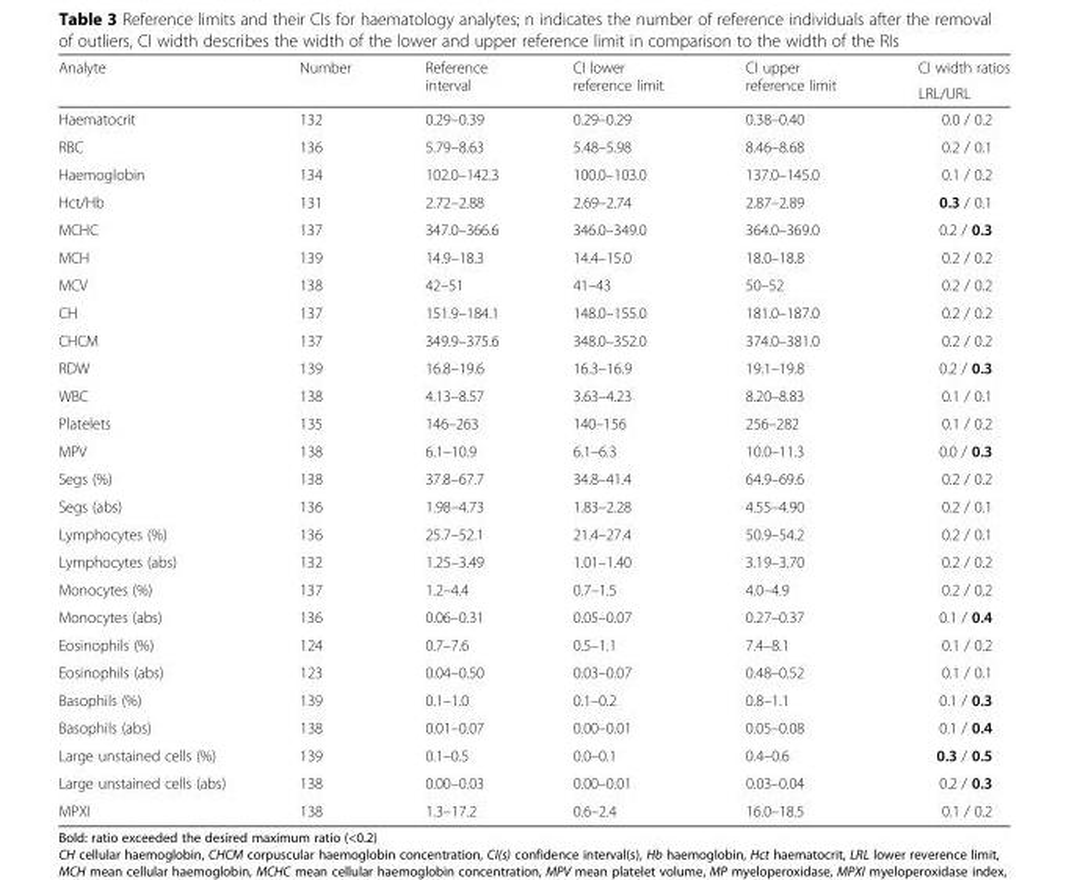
<table><thead><tr><td rowspan="2">Analyte</td><td rowspan="2">Number</td><td rowspan="2">Reference interval</td><td rowspan="2">CI lower reference limit</td><td rowspan="2">CI upper reference limit</td><td rowspan="2">CI width ratios LRL/URL</td></tr><tr></tr></thead><tbody><tr><td>Haematocrit</td><td>132</td><td>0.29–0.39</td><td>0.29–0.29</td><td>0.38–0.40</td><td>0.0 / 0.2</td></tr><tr><td>RBC</td><td>136</td><td>5.79–8.63</td><td>5.48–5.98</td><td>8.46–8.68</td><td>0.2 / 0.1</td></tr><tr><td>Haemoglobin</td><td>134</td><td>102.0–142.3</td><td>100.0–103.0</td><td>137.0–145.0</td><td>0.1 / 0.2</td></tr><tr><td>Hct/Hb</td><td>131</td><td>2.72–2.88</td><td>2.69–2.74</td><td>2.87–2.89</td><td>0.3 / 0.1</td></tr><tr><td>MCHC</td><td>137</td><td>347.0–366.6</td><td>346.0–349.0</td><td>364.0–369.0</td><td>0.2 / 0.3</td></tr><tr><td>MCH</td><td>139</td><td>14.9–18.3</td><td>14.4–15.0</td><td>18.0–18.8</td><td>0.2 / 0.2</td></tr><tr><td>MCV</td><td>138</td><td>42–51</td><td>41–43</td><td>50–52</td><td>0.2 / 0.2</td></tr><tr><td>CH</td><td>137</td><td>151.9–184.1</td><td>148.0–155.0</td><td>181.0–187.0</td><td>0.2 / 0.2</td></tr><tr><td>CHCM</td><td>137</td><td>349.9–375.6</td><td>348.0–352.0</td><td>374.0–381.0</td><td>0.2 / 0.2</td></tr><tr><td>RDW</td><td>139</td><td>16.8–19.6</td><td>16.3–16.9</td><td>19.1–19.8</td><td>0.2 / 0.3</td></tr><tr><td>WBC</td><td>138</td><td>4.13–8.57</td><td>3.63–4.23</td><td>8.20–8.83</td><td>0.1 / 0.1</td></tr><tr><td>Platelets</td><td>135</td><td>146–263</td><td>140–156</td><td>256–282</td><td>0.1 / 0.2</td></tr><tr><td>MPV</td><td>138</td><td>6.1–10.9</td><td>6.1–6.3</td><td>10.0–11.3</td><td>0.0 / 0.3</td></tr><tr><td>Segs (%)</td><td>138</td><td>37.8–67.7</td><td>34.8–41.4</td><td>64.9–69.6</td><td>0.2 / 0.2</td></tr><tr><td>Segs (abs)</td><td>136</td><td>1.98–4.73</td><td>1.83–2.28</td><td>4.55–4.90</td><td>0.2 / 0.1</td></tr><tr><td>Lymphocytes (%)</td><td>136</td><td>25.7–52.1</td><td>21.4–27.4</td><td>50.9–54.2</td><td>0.2 / 0.1</td></tr><tr><td>Lymphocytes (abs)</td><td>132</td><td>1.25–3.49</td><td>1.01–1.40</td><td>3.19–3.70</td><td>0.2 / 0.2</td></tr><tr><td>Monocytes (%)</td><td>137</td><td>1.2–4.4</td><td>0.7–1.5</td><td>4.0–4.9</td><td>0.2 / 0.2</td></tr><tr><td>Monocytes (abs)</td><td>136</td><td>0.06–0.31</td><td>0.05–0.07</td><td>0.27–0.37</td><td>0.1 / 0.4</td></tr><tr><td>Eosinophils (%)</td><td>124</td><td>0.7–7.6</td><td>0.5–1.1</td><td>7.4–8.1</td><td>0.1 / 0.2</td></tr><tr><td>Eosinophils (abs)</td><td>123</td><td>0.04–0.50</td><td>0.03–0.07</td><td>0.48–0.52</td><td>0.1 / 0.1</td></tr><tr><td>Basophils (%)</td><td>139</td><td>0.1–1.0</td><td>0.1–0.2</td><td>0.8–1.1</td><td>0.1 / 0.3</td></tr><tr><td>Basophils (abs)</td><td>138</td><td>0.01–0.07</td><td>0.00–0.01</td><td>0.05–0.08</td><td>0.1 / 0.4</td></tr><tr><td>Large unstained cells (%)</td><td>139</td><td>0.1–0.5</td><td>0.0–0.1</td><td>0.4–0.6</td><td>0.3 / 0.5</td></tr><tr><td>Large unstained cells (abs)</td><td>138</td><td>0.00–0.03</td><td>0.00–0.01</td><td>0.03–0.04</td><td>0.2 / 0.3</td></tr><tr><td>MPXI</td><td>138</td><td>1.3–17.2</td><td>0.6–2.4</td><td>16.0–18.5</td><td>0.1 / 0.2</td></tr></tbody></table>